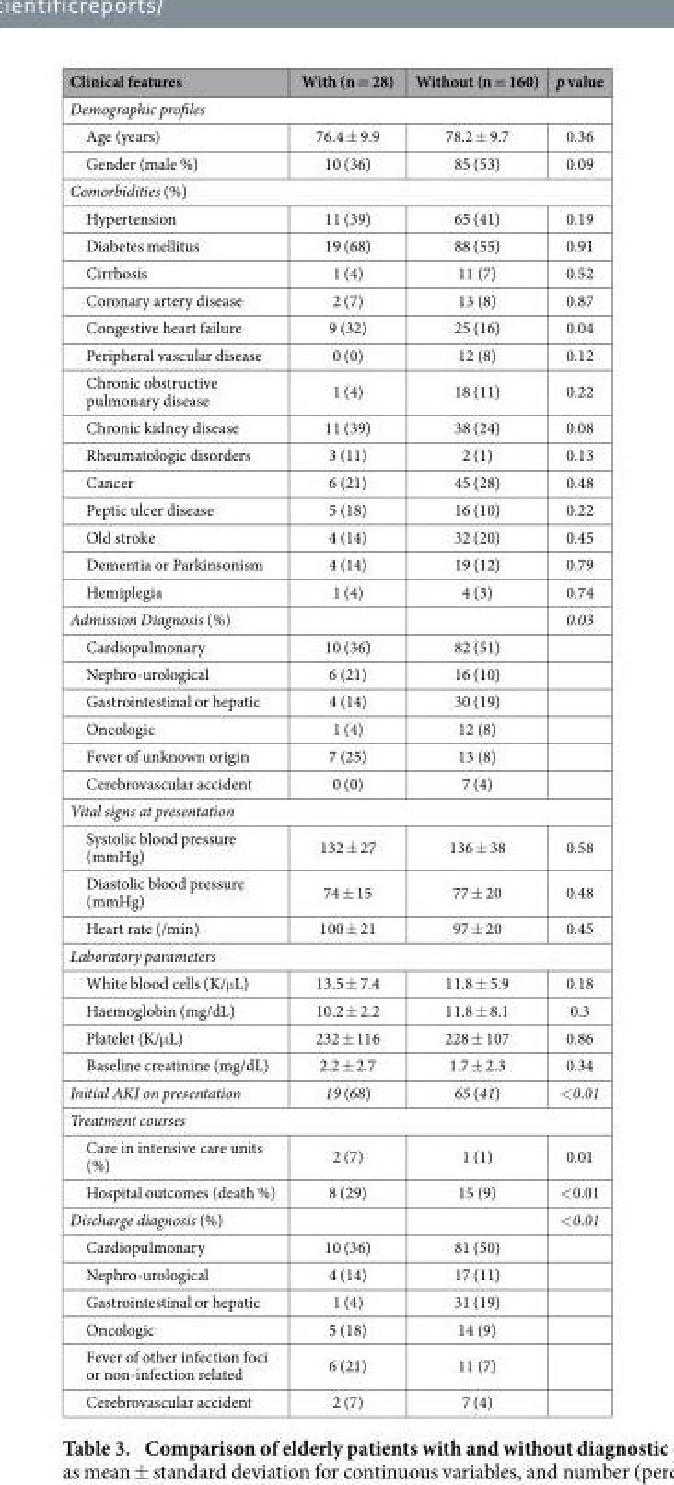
<table><thead><tr><td>Clinical features</td><td>With (n = 28)</td><td>Without (n = 160)</td><td>p value</td></tr></thead><tbody><tr><td colspan="4">Demographic profiles</td></tr><tr><td>Age (years)</td><td>76.4 ± 9.9</td><td>78.2 ± 9.7</td><td>0.36</td></tr><tr><td>Gender (male %)</td><td>10 (36)</td><td>85 (53)</td><td>0.09</td></tr><tr><td colspan="4">Comorbidities (%)</td></tr><tr><td>Hypertension</td><td>11 (39)</td><td>65 (41)</td><td>0.19</td></tr><tr><td>Diabetes mellitus</td><td>19 (68)</td><td>88 (55)</td><td>0.91</td></tr><tr><td>Cirrhosis</td><td>1 (4)</td><td>11 (7)</td><td>0.52</td></tr><tr><td>Coronary artery disease</td><td>2 (7)</td><td>13 (8)</td><td>0.87</td></tr><tr><td>Congestive heart failure</td><td>9 (32)</td><td>25 (16)</td><td>0.04</td></tr><tr><td>Peripheral vascular disease</td><td>0 (0)</td><td>12 (8)</td><td>0.12</td></tr><tr><td>Chronic obstructive pulmonary disease</td><td>1 (4)</td><td>18 (11)</td><td>0.22</td></tr><tr><td>Chronic kidney disease</td><td>11 (39)</td><td>38 (24)</td><td>0.08</td></tr><tr><td>Rheumatologic disorders</td><td>3 (11)</td><td>2 (1)</td><td>0.13</td></tr><tr><td>Cancer</td><td>6 (21)</td><td>45 (28)</td><td>0.48</td></tr><tr><td>Peptic ulcer disease</td><td>5 (18)</td><td>16 (10)</td><td>0.22</td></tr><tr><td>Old stroke</td><td>4 (14)</td><td>32 (20)</td><td>0.45</td></tr><tr><td>Dementia or Parkinsonism</td><td>4 (14)</td><td>19 (12)</td><td>0.79</td></tr><tr><td>Hemiplegia</td><td>1 (4)</td><td>4 (3)</td><td>0.74</td></tr><tr><td>Admission Diagnosis (%)</td><td></td><td></td><td>0.03</td></tr><tr><td>Cardiopulmonary</td><td>10 (36)</td><td>82 (51)</td><td></td></tr><tr><td>Nephro-urological</td><td>6 (21)</td><td>16 (10)</td><td></td></tr><tr><td>Gastrointestinal or hepatic</td><td>4 (14)</td><td>30 (19)</td><td></td></tr><tr><td>Oncologic</td><td>1 (4)</td><td>12 (8)</td><td></td></tr><tr><td>Fever of unknown origin</td><td>7 (25)</td><td>13 (8)</td><td></td></tr><tr><td>Cerebrovascular accident</td><td>0 (0)</td><td>7 (4)</td><td></td></tr><tr><td colspan="4">Vital signs at presentation</td></tr><tr><td>Systolic blood pressure (mmHg)</td><td>132 ± 27</td><td>136 ± 38</td><td>0.58</td></tr><tr><td>Diastolic blood pressure (mmHg)</td><td>74 ± 15</td><td>77 ± 20</td><td>0.48</td></tr><tr><td>Heart rate (/min)</td><td>100 ± 21</td><td>97 ± 20</td><td>0.45</td></tr><tr><td colspan="4">Laboratory parameters</td></tr><tr><td>White blood cells (K/μ L)</td><td>13.5 ± 7.4</td><td>11.8 ± 5.9</td><td>0.18</td></tr><tr><td>Haemoglobin (mg/dL)</td><td>10.2 ± 2.2</td><td>11.8 ± 8.1</td><td>0.3</td></tr><tr><td>Platelet (K/μ L)</td><td>232 ± 116</td><td>228 ± 107</td><td>0.86</td></tr><tr><td>Baseline creatinine (mg/dL)</td><td>2.2 ± 2.7</td><td>1.7 ± 2.3</td><td>0.34</td></tr><tr><td>Initial AKI on presentation</td><td>19 (68)</td><td>65 (41)</td><td>&lt;0.01</td></tr><tr><td colspan="4">Treatment courses</td></tr><tr><td>Care in intensive care units (%)</td><td>2 (7)</td><td>1 (1)</td><td>0.01</td></tr><tr><td>Hospital outcomes (death %)</td><td>8 (29)</td><td>15 (9)</td><td>&lt;0.01</td></tr><tr><td>Discharge diagnosis (%)</td><td></td><td></td><td>&lt;0.01</td></tr><tr><td>Cardiopulmonary</td><td>10 (36)</td><td>81 (50)</td><td></td></tr><tr><td>Nephro-urological</td><td>4 (14)</td><td>17 (11)</td><td></td></tr><tr><td>Gastrointestinal or hepatic</td><td>1 (4)</td><td>31 (19)</td><td></td></tr><tr><td>Oncologic</td><td>5 (18)</td><td>14 (9)</td><td></td></tr><tr><td>Fever of other infection foci or non-infection related</td><td>6 (21)</td><td>11 (7)</td><td></td></tr><tr><td>Cerebrovascular accident</td><td>2 (7)</td><td>7 (4)</td><td></td></tr></tbody></table>